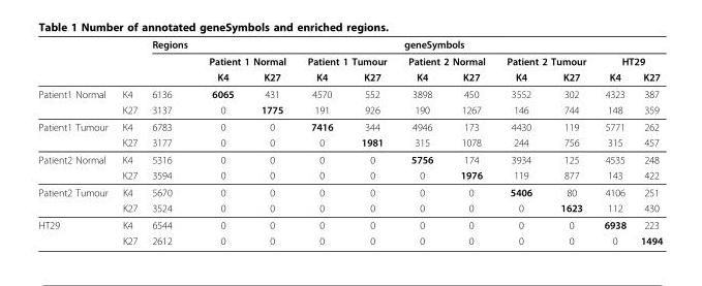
<table><thead><tr><td rowspan="3"></td><td rowspan="3"></td><td rowspan="3">Regions</td><td colspan="10">geneSymbols</td></tr><tr><td colspan="2">Patient 1 Normal</td><td colspan="2">Patient 1 Tumour</td><td colspan="2">Patient 2 Normal</td><td colspan="2">Patient 2 Tumour</td><td colspan="2">HT29</td></tr><tr><td>K4</td><td>K27</td><td>K4</td><td>K27</td><td>K4</td><td>K27</td><td>K4</td><td>K27</td><td>K4</td><td>K27</td></tr></thead><tbody><tr><td rowspan="2">Patient1 Normal</td><td>K4</td><td>6136</td><td>6065</td><td>431</td><td>4570</td><td>552</td><td>3898</td><td>450</td><td>3552</td><td>302</td><td>4323</td><td>387</td></tr><tr><td>K27</td><td>3137</td><td>0</td><td>1775</td><td>191</td><td>926</td><td>190</td><td>1267</td><td>146</td><td>744</td><td>148</td><td>359</td></tr><tr><td rowspan="2">Patient1 Tumour</td><td>K4</td><td>6783</td><td>0</td><td>0</td><td>7416</td><td>344</td><td>4946</td><td>173</td><td>4430</td><td>119</td><td>5771</td><td>262</td></tr><tr><td>K27</td><td>3177</td><td>0</td><td>0</td><td>0</td><td>1981</td><td>315</td><td>1078</td><td>244</td><td>756</td><td>315</td><td>457</td></tr><tr><td rowspan="2">Patient2 Normal</td><td>K4</td><td>5316</td><td>0</td><td>0</td><td>0</td><td>0</td><td>5756</td><td>174</td><td>3934</td><td>125</td><td>4535</td><td>248</td></tr><tr><td>K27</td><td>3594</td><td>0</td><td>0</td><td>0</td><td>0</td><td>0</td><td>1976</td><td>119</td><td>877</td><td>143</td><td>422</td></tr><tr><td rowspan="2">Patient2 Tumour</td><td>K4</td><td>5670</td><td>0</td><td>0</td><td>0</td><td>0</td><td>0</td><td>0</td><td>5406</td><td>80</td><td>4106</td><td>251</td></tr><tr><td>K27</td><td>3524</td><td>0</td><td>0</td><td>0</td><td>0</td><td>0</td><td>0</td><td>0</td><td>1623</td><td>112</td><td>430</td></tr><tr><td rowspan="2">HT29</td><td>K4</td><td>6544</td><td>0</td><td>0</td><td>0</td><td>0</td><td>0</td><td>0</td><td>0</td><td>0</td><td>6938</td><td>223</td></tr><tr><td>K27</td><td>2612</td><td>0</td><td>0</td><td>0</td><td>0</td><td>0</td><td>0</td><td>0</td><td>0</td><td>0</td><td>1494</td></tr></tbody></table>